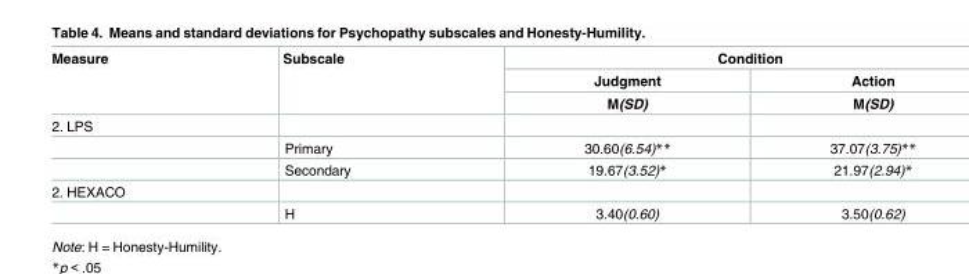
<table><thead><tr><td rowspan="3">Measure</td><td rowspan="3">Subscale</td><td colspan="2">Condition</td></tr><tr><td rowspan="2">Judgment M(SD)</td><td rowspan="2">Action M(SD)</td></tr><tr></tr></thead><tbody><tr><td colspan="4">2. LPS</td></tr><tr><td></td><td>Primary</td><td>30.60(6.54)**</td><td>37.07(3.75)**</td></tr><tr><td></td><td>Secondary</td><td>19.67(3.52)*</td><td>21.97(2.94)*</td></tr><tr><td colspan="4">2. HEXACO</td></tr><tr><td></td><td>H</td><td>3.40(0.60)</td><td>3.50(0.62)</td></tr></tbody></table>